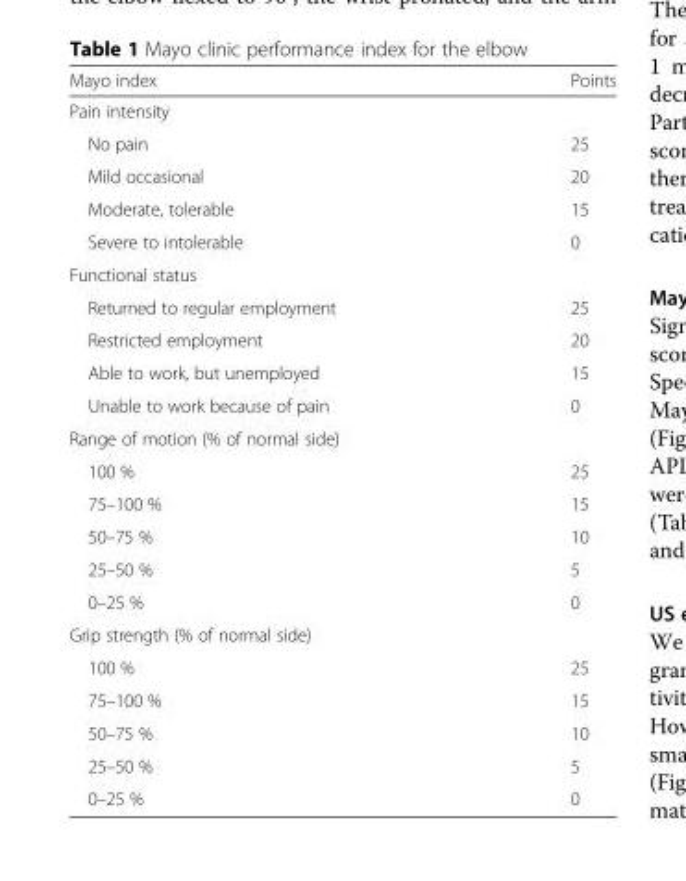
<table><thead><tr><td>Mayo index</td><td>Points</td></tr></thead><tbody><tr><td colspan="2">Pain intensity</td></tr><tr><td>No pain</td><td>25</td></tr><tr><td>Mild occasional</td><td>20</td></tr><tr><td>Moderate, tolerable</td><td>15</td></tr><tr><td>Severe to intolerable</td><td>0</td></tr><tr><td colspan="2">Functional status</td></tr><tr><td>Returned to regular employment</td><td>25</td></tr><tr><td>Restricted employment</td><td>20</td></tr><tr><td>Able to work, but unemployed</td><td>15</td></tr><tr><td>Unable to work because of pain</td><td>0</td></tr><tr><td colspan="2">Range of motion (% of normal side)</td></tr><tr><td>100 %</td><td>25</td></tr><tr><td>75–100 %</td><td>15</td></tr><tr><td>50–75 %</td><td>10</td></tr><tr><td>25–50 %</td><td>5</td></tr><tr><td>0–25 %</td><td>0</td></tr><tr><td colspan="2">Grip strength (% of normal side)</td></tr><tr><td>100 %</td><td>25</td></tr><tr><td>75–100 %</td><td>15</td></tr><tr><td>50–75 %</td><td>10</td></tr><tr><td>25–50 %</td><td>5</td></tr><tr><td>0–25 %</td><td>0</td></tr></tbody></table>